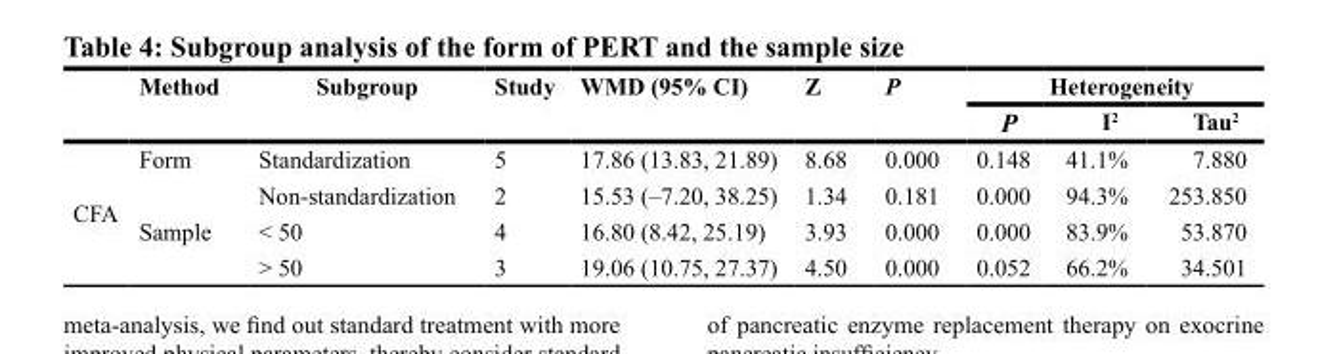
<table><thead><tr><td rowspan="2"></td><td rowspan="2">Method</td><td rowspan="2">Subgroup</td><td rowspan="2">Study</td><td rowspan="2">WMD (95% CI)</td><td rowspan="2">Z</td><td rowspan="2">P</td><td colspan="3">Heterogeneity</td></tr><tr><td>P</td><td>I<sup>2</sup></td><td>Tau<sup>2</sup></td></tr></thead><tbody><tr><td rowspan="4">CFA</td><td rowspan="2">Form</td><td>Standardization</td><td>5</td><td>17.86 (13.83, 21.89)</td><td>8.68</td><td>0.000</td><td>0.148</td><td>41.1%</td><td>7.880</td></tr><tr><td>Non-standardization</td><td>2</td><td>15.53 (–7.20, 38.25)</td><td>1.34</td><td>0.181</td><td>0.000</td><td>94.3%</td><td>253.850</td></tr><tr><td rowspan="2">Sample</td><td>&lt; 50</td><td>4</td><td>16.80 (8.42, 25.19)</td><td>3.93</td><td>0.000</td><td>0.000</td><td>83.9%</td><td>53.870</td></tr><tr><td>&gt; 50</td><td>3</td><td>19.06 (10.75, 27.37)</td><td>4.50</td><td>0.000</td><td>0.052</td><td>66.2%</td><td>34.501</td></tr></tbody></table>